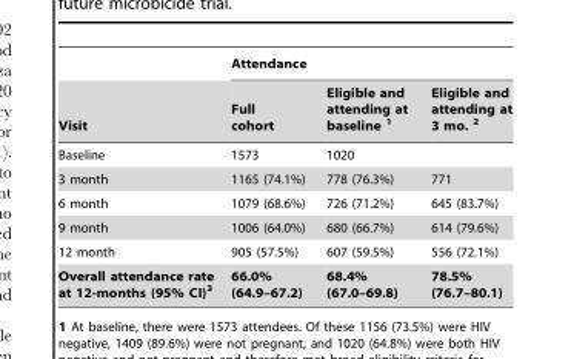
<table><thead><tr><td rowspan="2">Visit</td><td colspan="3">Attendance</td></tr><tr><td>Full cohort</td><td>Eligible and attending at baseline 1</td><td>Eligible and attending at 3 mo. 2</td></tr></thead><tbody><tr><td>Baseline</td><td>1573</td><td>1020</td><td></td></tr><tr><td>3 month</td><td>1165 (74.1%)</td><td>778 (76.3%)</td><td>771</td></tr><tr><td>6 month</td><td>1079 (68.6%)</td><td>726 (71.2%)</td><td>645 (83.7%)</td></tr><tr><td>9 month</td><td>1006 (64.0%)</td><td>680 (66.7%)</td><td>614 (79.6%)</td></tr><tr><td>12 month</td><td>905 (57.5%)</td><td>607 (59.5%)</td><td>556 (72.1%)</td></tr><tr><td>Overall attendance rate at 12-months (95% CI)3</td><td>66.0% (64.9–67.2)</td><td>68.4% (67.0–69.8)</td><td>78.5% (76.7–80.1)</td></tr></tbody></table>